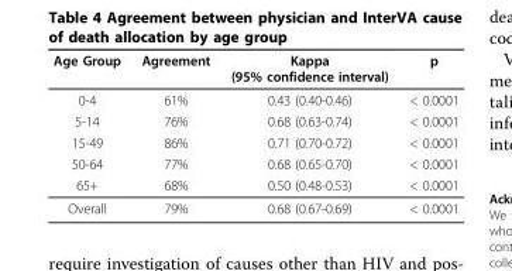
<table><thead><tr><td>Age Group</td><td>Agreement</td><td>Kappa (95% confidence interval)</td><td>p</td></tr></thead><tbody><tr><td>0-4</td><td>61%</td><td>0.43 (0.40-0.46)</td><td>&lt; 0.0001</td></tr><tr><td>5-14</td><td>76%</td><td>0.68 (0.63-0.74)</td><td>&lt; 0.0001</td></tr><tr><td>15-49</td><td>86%</td><td>0.71 (0.70-0.72)</td><td>&lt; 0.0001</td></tr><tr><td>50-64</td><td>77%</td><td>0.68 (0.65-0.70)</td><td>&lt; 0.0001</td></tr><tr><td>65+</td><td>68%</td><td>0.50 (0.48-0.53)</td><td>&lt; 0.0001</td></tr><tr><td>Overall</td><td>79%</td><td>0.68 (0.67-0.69)</td><td>&lt; 0.0001</td></tr></tbody></table>